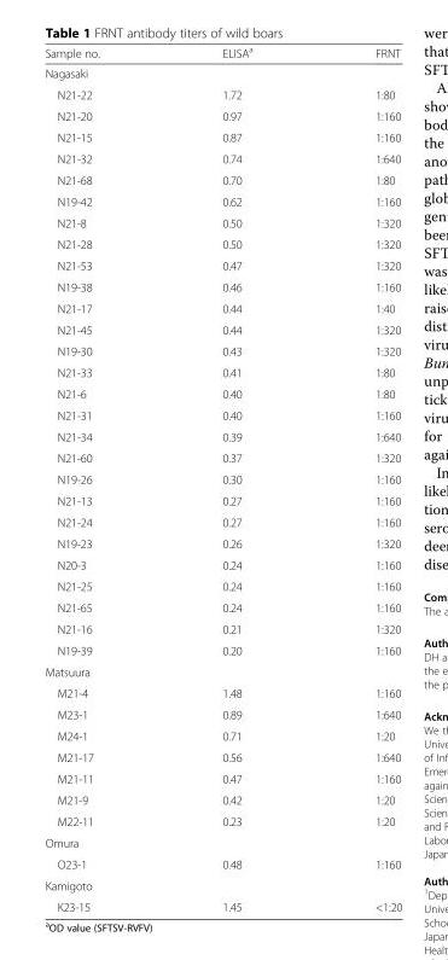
<table><thead><tr><td>Sample no.</td><td>ELISA<sup>a</sup></td><td>FRNT</td></tr></thead><tbody><tr><td colspan="3">Nagasaki</td></tr><tr><td>N21-22</td><td>1.72</td><td>1:80</td></tr><tr><td>N21-20</td><td>0.97</td><td>1:160</td></tr><tr><td>N21-15</td><td>0.87</td><td>1:160</td></tr><tr><td>N21-32</td><td>0.74</td><td>1:640</td></tr><tr><td>N21-68</td><td>0.70</td><td>1:80</td></tr><tr><td>N19-42</td><td>0.62</td><td>1:160</td></tr><tr><td>N21-8</td><td>0.50</td><td>1:320</td></tr><tr><td>N21-28</td><td>0.50</td><td>1:320</td></tr><tr><td>N21-53</td><td>0.47</td><td>1:320</td></tr><tr><td>N19-38</td><td>0.46</td><td>1:160</td></tr><tr><td>N21-17</td><td>0.44</td><td>1:40</td></tr><tr><td>N21-45</td><td>0.44</td><td>1:320</td></tr><tr><td>N19-30</td><td>0.43</td><td>1:320</td></tr><tr><td>N21-33</td><td>0.41</td><td>1:80</td></tr><tr><td>N21-6</td><td>0.40</td><td>1:80</td></tr><tr><td>N21-31</td><td>0.40</td><td>1:160</td></tr><tr><td>N21-34</td><td>0.39</td><td>1:640</td></tr><tr><td>N21-60</td><td>0.37</td><td>1:320</td></tr><tr><td>N19-26</td><td>0.30</td><td>1:160</td></tr><tr><td>N21-13</td><td>0.27</td><td>1:160</td></tr><tr><td>N21-24</td><td>0.27</td><td>1:160</td></tr><tr><td>N19-23</td><td>0.26</td><td>1:320</td></tr><tr><td>N20-3</td><td>0.24</td><td>1:160</td></tr><tr><td>N21-25</td><td>0.24</td><td>1:160</td></tr><tr><td>N21-65</td><td>0.24</td><td>1:160</td></tr><tr><td>N21-16</td><td>0.21</td><td>1:320</td></tr><tr><td>N19-39</td><td>0.20</td><td>1:160</td></tr><tr><td colspan="3">Matsuura</td></tr><tr><td>M21-4</td><td>1.48</td><td>1:160</td></tr><tr><td>M23-1</td><td>0.89</td><td>1:640</td></tr><tr><td>M24-1</td><td>0.71</td><td>1:20</td></tr><tr><td>M21-17</td><td>0.56</td><td>1:640</td></tr><tr><td>M21-11</td><td>0.47</td><td>1:160</td></tr><tr><td>M21-9</td><td>0.42</td><td>1:20</td></tr><tr><td>M22-11</td><td>0.23</td><td>1:20</td></tr><tr><td colspan="3">Omura</td></tr><tr><td>O23-1</td><td>0.48</td><td>1:160</td></tr><tr><td colspan="3">Kamigoto</td></tr><tr><td>K23-15</td><td>1.45</td><td>&lt;1:20</td></tr></tbody></table>